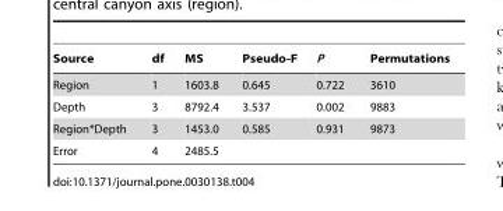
<table><thead><tr><td>Source</td><td>df</td><td>MS</td><td>Pseudo-F</td><td>P</td><td>Permutations</td></tr></thead><tbody><tr><td>Region</td><td>1</td><td>1603.8</td><td>0.645</td><td>0.722</td><td>3610</td></tr><tr><td>Depth</td><td>3</td><td>8792.4</td><td>3.537</td><td>0.002</td><td>9883</td></tr><tr><td>Region*Depth</td><td>3</td><td>1453.0</td><td>0.585</td><td>0.931</td><td>9873</td></tr><tr><td>Error</td><td>4</td><td>2485.5</td><td></td><td></td><td></td></tr></tbody></table>